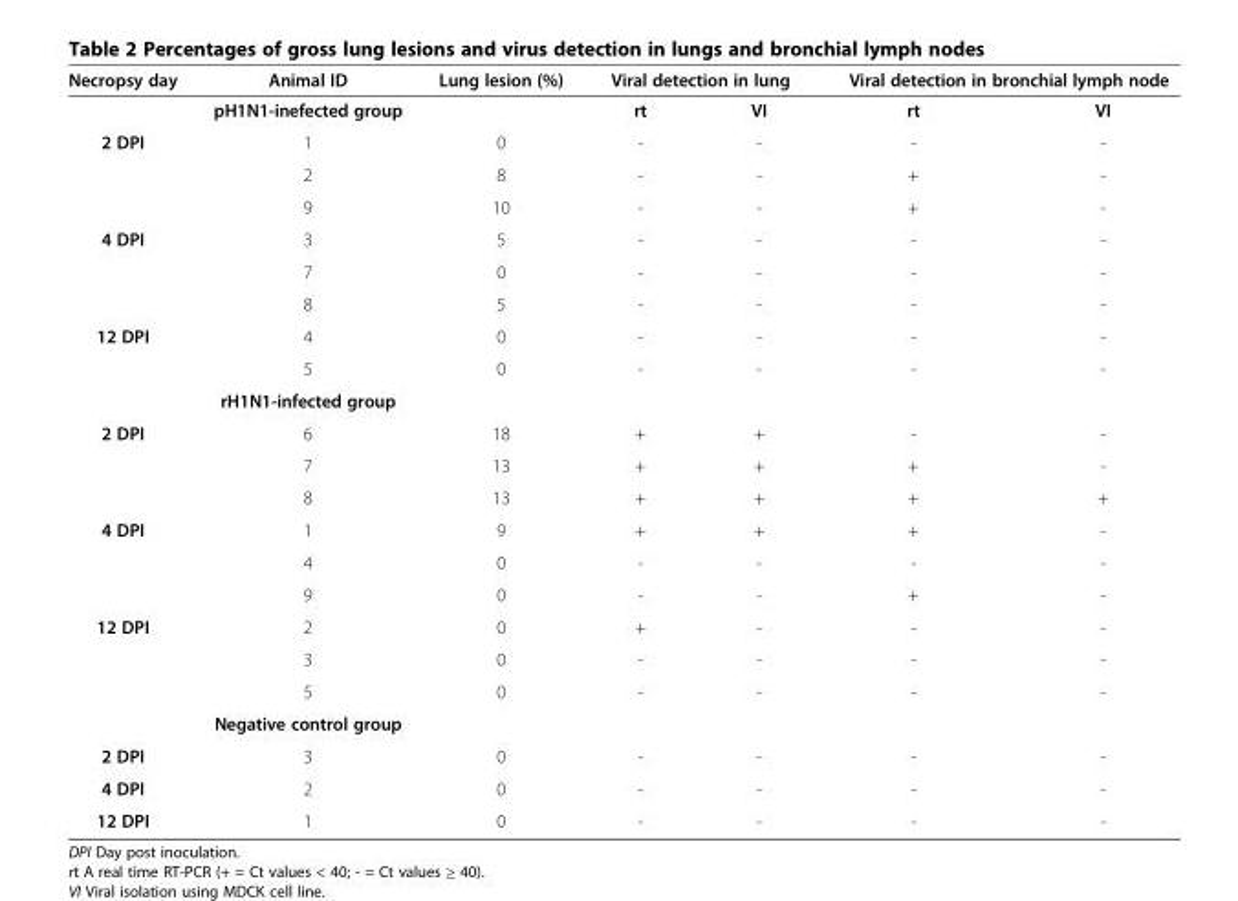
<table><thead><tr><td rowspan="2">Necropsy day</td><td rowspan="2">Animal ID pH1N1-inefected group</td><td rowspan="2">Lung lesion (%)</td><td colspan="2">Viral detection in lung</td><td colspan="2">Viral detection in bronchial lymph node</td></tr><tr><td>rt</td><td>VI</td><td>rt</td><td>VI</td></tr></thead><tbody><tr><td rowspan="3">2 DPI</td><td>1</td><td>0</td><td>-</td><td>-</td><td>-</td><td>-</td></tr><tr><td>2</td><td>8</td><td>-</td><td>-</td><td>+</td><td>-</td></tr><tr><td>9</td><td>10</td><td>-</td><td>-</td><td>+</td><td>-</td></tr><tr><td rowspan="3">4 DPI</td><td>3</td><td>5</td><td>-</td><td>-</td><td>-</td><td>-</td></tr><tr><td>7</td><td>0</td><td>-</td><td>-</td><td>-</td><td>-</td></tr><tr><td>8</td><td>5</td><td>-</td><td>-</td><td>-</td><td>-</td></tr><tr><td rowspan="3">12 DPI</td><td>4</td><td>0</td><td>-</td><td>-</td><td>-</td><td>-</td></tr><tr><td>5</td><td>0</td><td>-</td><td>-</td><td>-</td><td>-</td></tr><tr><td>rH1N1-infected group</td><td></td><td></td><td></td><td></td><td></td></tr><tr><td rowspan="3">2 DPI</td><td>6</td><td>18</td><td>+</td><td>+</td><td>-</td><td>-</td></tr><tr><td>7</td><td>13</td><td>+</td><td>+</td><td>+</td><td>-</td></tr><tr><td>8</td><td>13</td><td>+</td><td>+</td><td>+</td><td>+</td></tr><tr><td rowspan="3">4 DPI</td><td>1</td><td>9</td><td>+</td><td>+</td><td>+</td><td>-</td></tr><tr><td>4</td><td>0</td><td>-</td><td>-</td><td>-</td><td>-</td></tr><tr><td>9</td><td>0</td><td>-</td><td>-</td><td>+</td><td>-</td></tr><tr><td rowspan="4">12 DPI</td><td>2</td><td>0</td><td>+</td><td>-</td><td>-</td><td>-</td></tr><tr><td>3</td><td>0</td><td>-</td><td>-</td><td>-</td><td>-</td></tr><tr><td>5</td><td>0</td><td>-</td><td>-</td><td>-</td><td>-</td></tr><tr><td>Negative control group</td><td></td><td></td><td></td><td></td><td></td></tr><tr><td>2 DPI</td><td>3</td><td>0</td><td>-</td><td>-</td><td>-</td><td>-</td></tr><tr><td>4 DPI</td><td>2</td><td>0</td><td>-</td><td>-</td><td>-</td><td>-</td></tr><tr><td>12 DPI</td><td>1</td><td>0</td><td>-</td><td>-</td><td>-</td><td>-</td></tr></tbody></table>